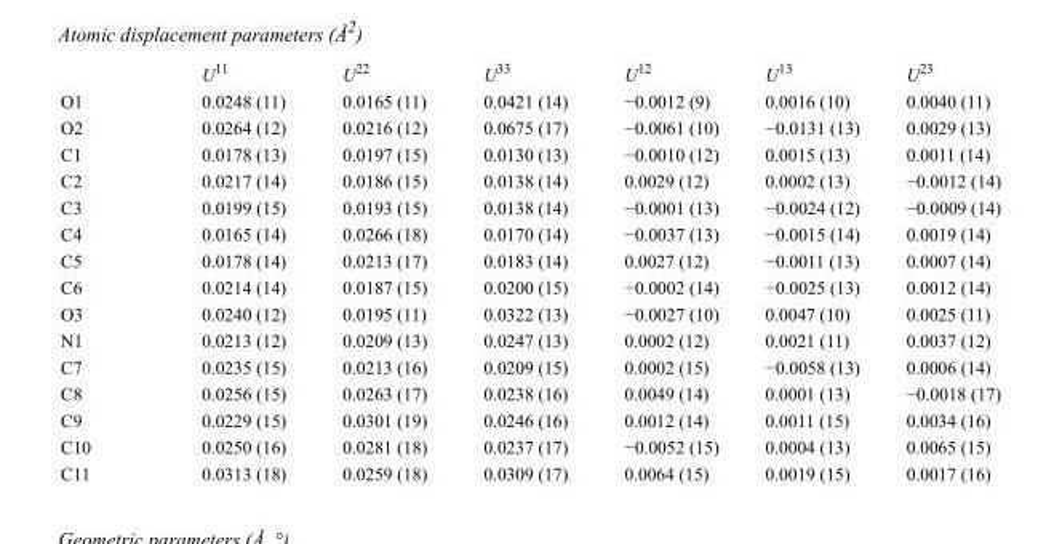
<table><thead><tr><td></td><td>U<sup>11</sup></td><td>U<sup>22</sup></td><td>U<sup>33</sup></td><td>U<sup>12</sup></td><td>U<sup>13</sup></td><td>U<sup>23</sup></td></tr></thead><tbody><tr><td>O1</td><td>0.0248 (11)</td><td>0.0165 (11)</td><td>0.0421 (14)</td><td>−0.0012 (9)</td><td>0.0016 (10)</td><td>0.0040 (11)</td></tr><tr><td>O2</td><td>0.0264 (12)</td><td>0.0216 (12)</td><td>0.0675 (17)</td><td>−0.0061 (10)</td><td>−0.0131 (13)</td><td>0.0029 (13)</td></tr><tr><td>C1</td><td>0.0178 (13)</td><td>0.0197 (15)</td><td>0.0130 (13)</td><td>−0.0010 (12)</td><td>0.0015 (13)</td><td>0.0011 (14)</td></tr><tr><td>C2</td><td>0.0217 (14)</td><td>0.0186 (15)</td><td>0.0138 (14)</td><td>0.0029 (12)</td><td>0.0002 (13)</td><td>−0.0012 (14)</td></tr><tr><td>C3</td><td>0.0199 (15)</td><td>0.0193 (15)</td><td>0.0138 (14)</td><td>−0.0001 (13)</td><td>−0.0024 (12)</td><td>−0.0009 (14)</td></tr><tr><td>C4</td><td>0.0165 (14)</td><td>0.0266 (18)</td><td>0.0170 (14)</td><td>−0.0037 (13)</td><td>−0.0015 (14)</td><td>0.0019 (14)</td></tr><tr><td>C5</td><td>0.0178 (14)</td><td>0.0213 (17)</td><td>0.0183 (14)</td><td>0.0027 (12)</td><td>−0.0011 (13)</td><td>0.0007 (14)</td></tr><tr><td>C6</td><td>0.0214 (14)</td><td>0.0187 (15)</td><td>0.0200 (15)</td><td>−0.0002 (14)</td><td>−0.0025 (13)</td><td>0.0012 (14)</td></tr><tr><td>O3</td><td>0.0240 (12)</td><td>0.0195 (11)</td><td>0.0322 (13)</td><td>−0.0027 (10)</td><td>0.0047 (10)</td><td>0.0025 (11)</td></tr><tr><td>N1</td><td>0.0213 (12)</td><td>0.0209 (13)</td><td>0.0247 (13)</td><td>0.0002 (12)</td><td>0.0021 (11)</td><td>0.0037 (12)</td></tr><tr><td>C7</td><td>0.0235 (15)</td><td>0.0213 (16)</td><td>0.0209 (15)</td><td>0.0002 (15)</td><td>−0.0058 (13)</td><td>0.0006 (14)</td></tr><tr><td>C8</td><td>0.0256 (15)</td><td>0.0263 (17)</td><td>0.0238 (16)</td><td>0.0049 (14)</td><td>0.0001 (13)</td><td>−0.0018 (17)</td></tr><tr><td>C9</td><td>0.0229 (15)</td><td>0.0301 (19)</td><td>0.0246 (16)</td><td>0.0012 (14)</td><td>0.0011 (15)</td><td>0.0034 (16)</td></tr><tr><td>C10</td><td>0.0250 (16)</td><td>0.0281 (18)</td><td>0.0237 (17)</td><td>−0.0052 (15)</td><td>0.0004 (13)</td><td>0.0065 (15)</td></tr><tr><td>C11</td><td>0.0313 (18)</td><td>0.0259 (18)</td><td>0.0309 (17)</td><td>0.0064 (15)</td><td>0.0019 (15)</td><td>0.0017 (16)</td></tr></tbody></table>